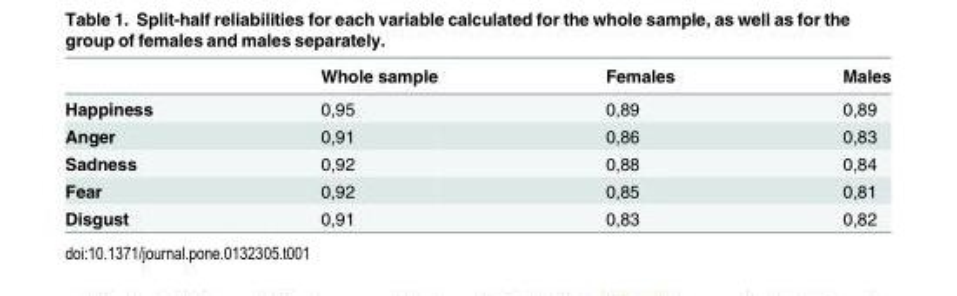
<table><thead><tr><td></td><td>Whole sample</td><td>Females</td><td>Males</td></tr></thead><tbody><tr><td>Happiness</td><td>0,95</td><td>0,89</td><td>0,89</td></tr><tr><td>Anger</td><td>0,91</td><td>0,86</td><td>0,83</td></tr><tr><td>Sadness</td><td>0,92</td><td>0,88</td><td>0,84</td></tr><tr><td>Fear</td><td>0,92</td><td>0,85</td><td>0,81</td></tr><tr><td>Disgust</td><td>0,91</td><td>0,83</td><td>0,82</td></tr></tbody></table>